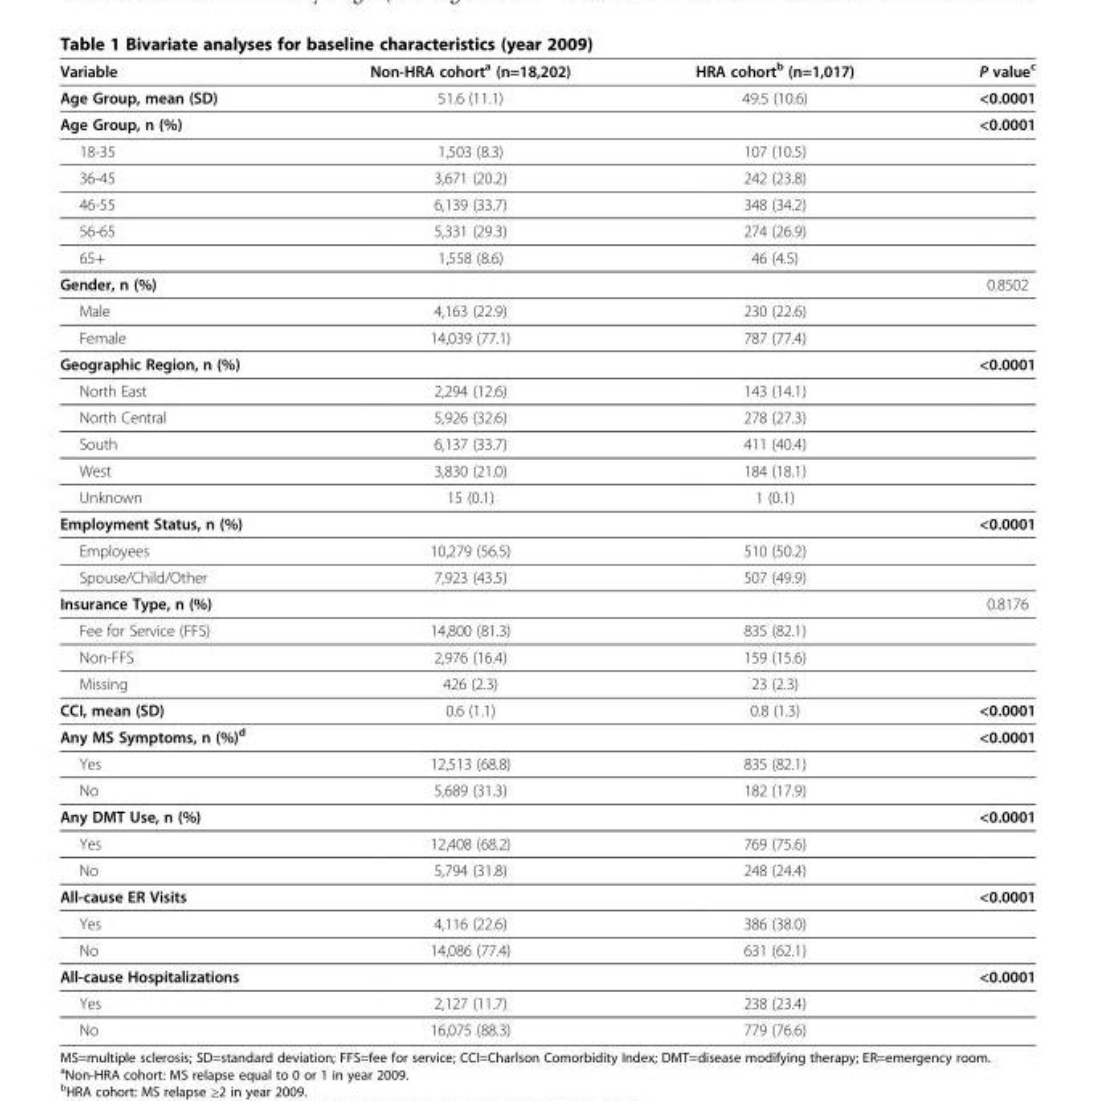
<table><thead><tr><td>Variable</td><td>Non-HRA cohort<sup>a</sup> (n=18,202)</td><td>HRA cohort<sup>b</sup> (n=1,017)</td><td>P value<sup>c</sup></td></tr></thead><tbody><tr><td>Age Group, mean (SD)</td><td>51.6 (11.1)</td><td>49.5 (10.6)</td><td>&lt;0.0001</td></tr><tr><td>Age Group, n (%)</td><td></td><td></td><td>&lt;0.0001</td></tr><tr><td>18-35</td><td>1,503 (8.3)</td><td>107 (10.5)</td><td></td></tr><tr><td>36-45</td><td>3,671 (20.2)</td><td>242 (23.8)</td><td></td></tr><tr><td>46-55</td><td>6,139 (33.7)</td><td>348 (34.2)</td><td></td></tr><tr><td>56-65</td><td>5,331 (29.3)</td><td>274 (26.9)</td><td></td></tr><tr><td>65+</td><td>1,558 (8.6)</td><td>46 (4.5)</td><td></td></tr><tr><td colspan="3">Gender, n (%)</td><td>0.8502</td></tr><tr><td>Male</td><td>4,163 (22.9)</td><td>230 (22.6)</td><td></td></tr><tr><td>Female</td><td>14,039 (77.1)</td><td>787 (77.4)</td><td></td></tr><tr><td>Geographic Region, n (%)</td><td></td><td></td><td>&lt;0.0001</td></tr><tr><td>North East</td><td>2,294 (12.6)</td><td>143 (14.1)</td><td></td></tr><tr><td>North Central</td><td>5,926 (32.6)</td><td>278 (27.3)</td><td></td></tr><tr><td>South</td><td>6,137 (33.7)</td><td>411 (40.4)</td><td></td></tr><tr><td>West</td><td>3,830 (21.0)</td><td>184 (18.1)</td><td></td></tr><tr><td>Unknown</td><td>15 (0.1)</td><td>1 (0.1)</td><td></td></tr><tr><td>Employment Status, n (%)</td><td></td><td></td><td>&lt;0.0001</td></tr><tr><td>Employees</td><td>10,279 (56.5)</td><td>510 (50.2)</td><td></td></tr><tr><td>Spouse/Child/Other</td><td>7,923 (43.5)</td><td>507 (49.9)</td><td></td></tr><tr><td>Insurance Type, n (%)</td><td></td><td></td><td>0.8176</td></tr><tr><td>Fee for Service (FFS)</td><td>14,800 (81.3)</td><td>835 (82.1)</td><td></td></tr><tr><td>Non-FFS</td><td>2,976 (16.4)</td><td>159 (15.6)</td><td></td></tr><tr><td>Missing</td><td>426 (2.3)</td><td>23 (2.3)</td><td></td></tr><tr><td>CCI, mean (SD)</td><td>0.6 (1.1)</td><td>0.8 (1.3)</td><td>&lt;0.0001</td></tr><tr><td>Any MS Symptoms, n (%)<sup>d</sup></td><td></td><td></td><td>&lt;0.0001</td></tr><tr><td>Yes</td><td>12,513 (68.8)</td><td>835 (82.1)</td><td></td></tr><tr><td>No</td><td>5,689 (31.3)</td><td>182 (17.9)</td><td></td></tr><tr><td>Any DMT Use, n (%)</td><td></td><td></td><td>&lt;0.0001</td></tr><tr><td>Yes</td><td>12,408 (68.2)</td><td>769 (75.6)</td><td></td></tr><tr><td>No</td><td>5,794 (31.8)</td><td>248 (24.4)</td><td></td></tr><tr><td>All-cause ER Visits</td><td></td><td></td><td>&lt;0.0001</td></tr><tr><td>Yes</td><td>4,116 (22.6)</td><td>386 (38.0)</td><td></td></tr><tr><td>No</td><td>14,086 (77.4)</td><td>631 (62.1)</td><td></td></tr><tr><td>All-cause Hospitalizations</td><td></td><td></td><td>&lt;0.0001</td></tr><tr><td>Yes</td><td>2,127 (11.7)</td><td>238 (23.4)</td><td></td></tr><tr><td>No</td><td>16,075 (88.3)</td><td>779 (76.6)</td><td></td></tr></tbody></table>